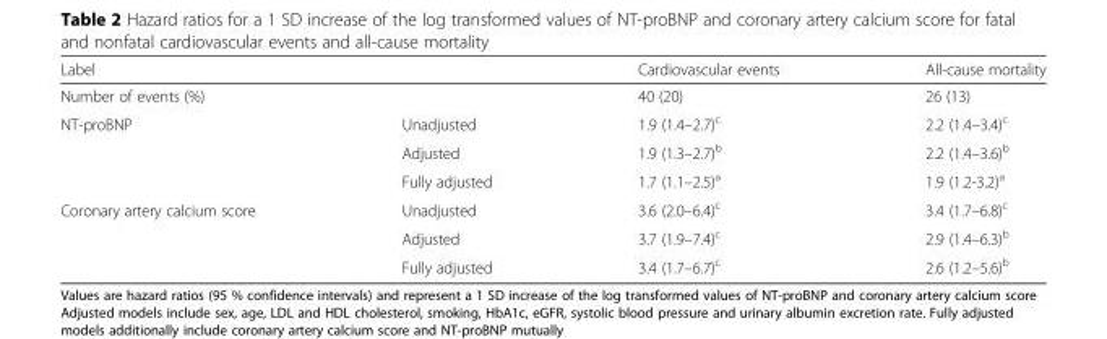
<table><thead><tr><td>Label</td><td></td><td>Cardiovascular events</td><td>All-cause mortality</td></tr></thead><tbody><tr><td>Number of events (%)</td><td></td><td>40 (20)</td><td>26 (13)</td></tr><tr><td rowspan="3">NT-proBNP</td><td>Unadjusted</td><td>1.9 (1.4–2.7)<sup>c</sup></td><td>2.2 (1.4–3.4)<sup>c</sup></td></tr><tr><td>Adjusted</td><td>1.9 (1.3–2.7)<sup>b</sup></td><td>2.2 (1.4–3.6)<sup>b</sup></td></tr><tr><td>Fully adjusted</td><td>1.7 (1.1–2.5)<sup>a</sup></td><td>1.9 (1.2-3.2)<sup>a</sup></td></tr><tr><td rowspan="3">Coronary artery calcium score</td><td>Unadjusted</td><td>3.6 (2.0–6.4)<sup>c</sup></td><td>3.4 (1.7–6.8)<sup>c</sup></td></tr><tr><td>Adjusted</td><td>3.7 (1.9–7.4)<sup>c</sup></td><td>2.9 (1.4–6.3)<sup>b</sup></td></tr><tr><td>Fully adjusted</td><td>3.4 (1.7–6.7)<sup>c</sup></td><td>2.6 (1.2–5.6)<sup>b</sup></td></tr></tbody></table>